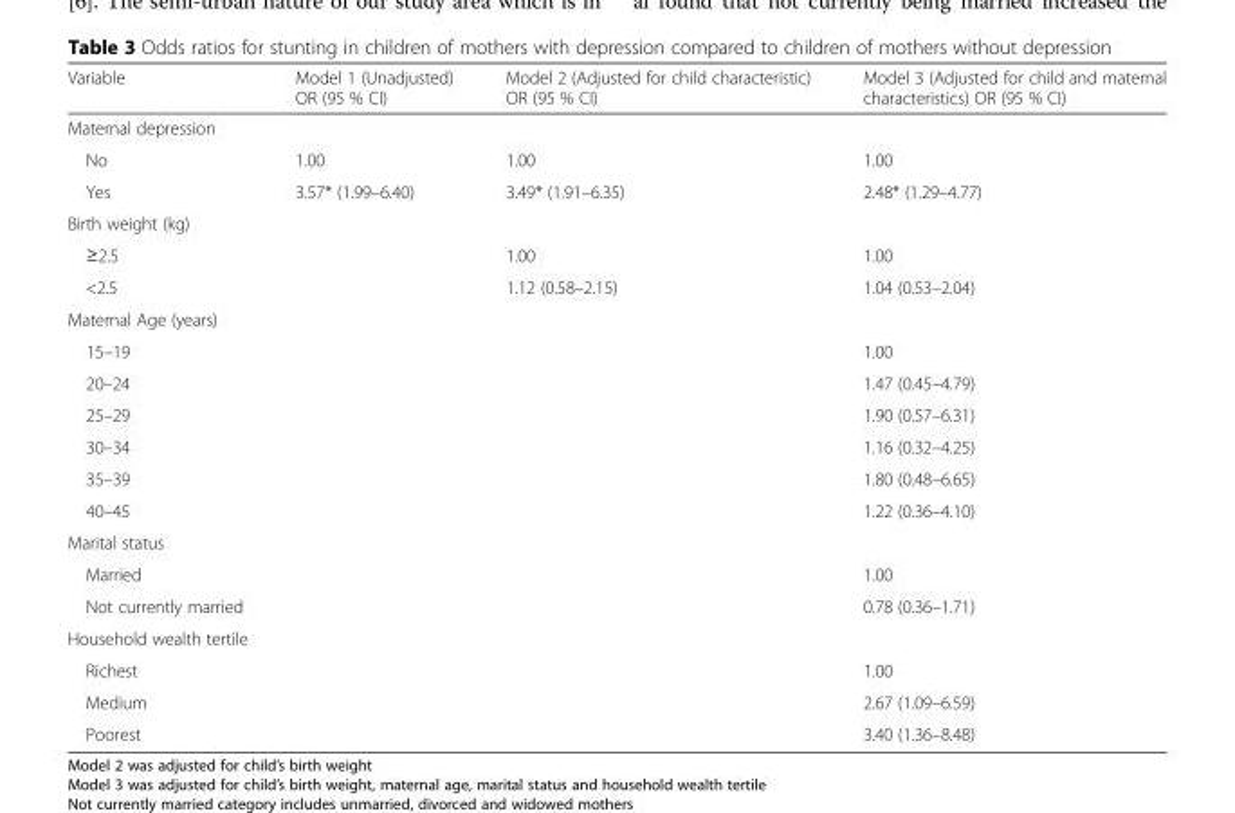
<table><thead><tr><td>Variable</td><td>Model 1 (Unadjusted) OR (95 % CI)</td><td>Model 2 (Adjusted for child characteristic) OR (95 % CI)</td><td>Model 3 (Adjusted for child and maternal characteristics) OR (95 % CI)</td></tr></thead><tbody><tr><td colspan="4">Maternal depression</td></tr><tr><td>No</td><td>1.00</td><td>1.00</td><td>1.00</td></tr><tr><td>Yes</td><td>3.57* (1.99–6.40)</td><td>3.49* (1.91–6.35)</td><td>2.48* (1.29–4.77)</td></tr><tr><td colspan="4">Birth weight (kg)</td></tr><tr><td>≥2.5</td><td></td><td>1.00</td><td>1.00</td></tr><tr><td>&lt;2.5</td><td></td><td>1.12 (0.58–2.15)</td><td>1.04 (0.53–2.04)</td></tr><tr><td colspan="4">Maternal Age (years)</td></tr><tr><td>15–19</td><td></td><td></td><td>1.00</td></tr><tr><td>20–24</td><td></td><td></td><td>1.47 (0.45–4.79)</td></tr><tr><td>25–29</td><td></td><td></td><td>1.90 (0.57–6.31)</td></tr><tr><td>30–34</td><td></td><td></td><td>1.16 (0.32–4.25)</td></tr><tr><td>35–39</td><td></td><td></td><td>1.80 (0.48–6.65)</td></tr><tr><td>40–45</td><td></td><td></td><td>1.22 (0.36–4.10)</td></tr><tr><td colspan="4">Marital status</td></tr><tr><td>Married</td><td></td><td></td><td>1.00</td></tr><tr><td>Not currently married</td><td></td><td></td><td>0.78 (0.36–1.71)</td></tr><tr><td colspan="4">Household wealth tertile</td></tr><tr><td>Richest</td><td></td><td></td><td>1.00</td></tr><tr><td>Medium</td><td></td><td></td><td>2.67 (1.09–6.59)</td></tr><tr><td>Poorest</td><td></td><td></td><td>3.40 (1.36–8.48)</td></tr></tbody></table>